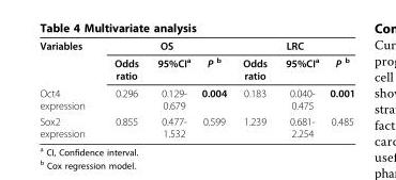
<table><tbody><tr><td rowspan="2">Variables</td><td colspan="3">OS</td><td colspan="3">LRC</td></tr><tr><td>Odds ratio</td><td>95%CI<sup>a</sup></td><td>P <sup>b</sup></td><td>Odds ratio</td><td>95%CI<sup>a</sup></td><td>P <sup>b</sup></td></tr><tr><td>Oct4 expression</td><td>0.296</td><td>0.129- 0.679</td><td>0.004</td><td>0.183</td><td>0.040- 0.475</td><td>0.001</td></tr><tr><td>Sox2 expression</td><td>0.855</td><td>0.477- 1.532</td><td>0.599</td><td>1.239</td><td>0.681- 2.254</td><td>0.485</td></tr></tbody></table>